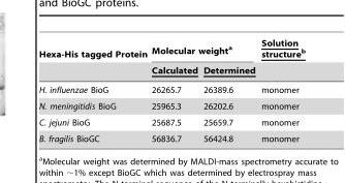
<table><thead><tr><td rowspan="2">Hexa-His tagged Protein</td><td colspan="2">Molecular weight<sup>a</sup></td><td rowspan="2">Solution structureb</td></tr><tr><td>Calculated</td><td>Determined</td></tr></thead><tbody><tr><td>H. influenzae BioG</td><td>26265.7</td><td>26389.6</td><td>monomer</td></tr><tr><td>N. meningitidis BioG</td><td>25965.3</td><td>26202.6</td><td>monomer</td></tr><tr><td>C. jejuni BioG</td><td>25687.5</td><td>25659.7</td><td>monomer</td></tr><tr><td>B. fragilis BioGC</td><td>56836.7</td><td>56424.8</td><td>monomer</td></tr></tbody></table>